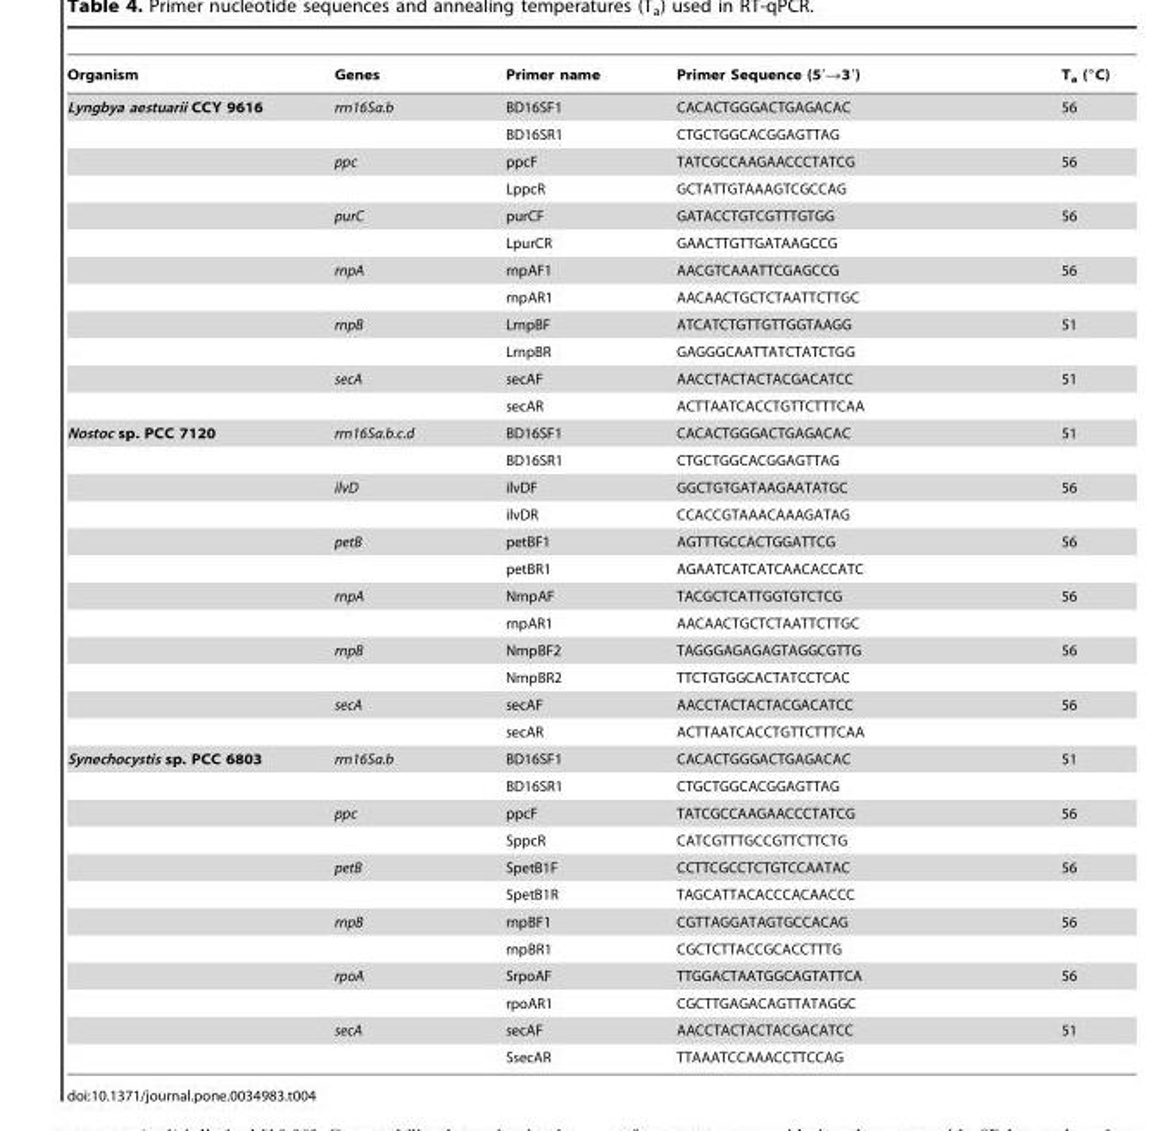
<table><thead><tr><td>Organism</td><td>Genes</td><td>Primer name</td><td>Primer Sequence (5′→3′)</td><td>T<sub>a</sub> (°C)</td></tr></thead><tbody><tr><td rowspan="12">Lyngbya aestuarii CCY 9616</td><td>rrn16Sa.b</td><td>BD16SF1</td><td>CACACTGGGACTGAGACAC</td><td>56</td></tr><tr><td></td><td>BD16SR1</td><td>CTGCTGGCACGGAGTTAG</td><td></td></tr><tr><td>ppc</td><td>ppcF</td><td>TATCGCCAAGAACCCTATCG</td><td>56</td></tr><tr><td></td><td>LppcR</td><td>GCTATTGTAAAGTCGCCAG</td><td></td></tr><tr><td>purC</td><td>purCF</td><td>GATACCTGTCGTTTGTGG</td><td>56</td></tr><tr><td></td><td>LpurCR</td><td>GAACTTGTTGATAAGCCG</td><td></td></tr><tr><td>rnpA</td><td>rnpAF1</td><td>AACGTCAAATTCGAGCCG</td><td>56</td></tr><tr><td></td><td>rnpAR1</td><td>AACAACTGCTCTAATTCTTGC</td><td></td></tr><tr><td>rnpB</td><td>LrnpBF</td><td>ATCATCTGTTGTTGGTAAGG</td><td>51</td></tr><tr><td></td><td>LrnpBR</td><td>GAGGGCAATTATCTATCTGG</td><td></td></tr><tr><td>secA</td><td>secAF</td><td>AACCTACTACTACGACATCC</td><td>51</td></tr><tr><td></td><td>secAR</td><td>ACTTAATCACCTGTTCTTTCAA</td><td></td></tr><tr><td rowspan="12">Nostoc sp. PCC 7120</td><td>rrn16Sa.b.c.d</td><td>BD16SF1</td><td>CACACTGGGACTGAGACAC</td><td>51</td></tr><tr><td></td><td>BD16SR1</td><td>CTGCTGGCACGGAGTTAG</td><td></td></tr><tr><td>ilvD</td><td>ilvDF</td><td>GGCTGTGATAAGAATATGC</td><td>56</td></tr><tr><td></td><td>ilvDR</td><td>CCACCGTAAACAAAGATAG</td><td></td></tr><tr><td>petB</td><td>petBF1</td><td>AGTTTGCCACTGGATTCG</td><td>56</td></tr><tr><td></td><td>petBR1</td><td>AGAATCATCATCAACACCATC</td><td></td></tr><tr><td>rnpA</td><td>NrnpAF</td><td>TACGCTCATTGGTGTCTCG</td><td>56</td></tr><tr><td></td><td>rnpAR1</td><td>AACAACTGCTCTAATTCTTGC</td><td></td></tr><tr><td>rnpB</td><td>NrnpBF2</td><td>TAGGGAGAGAGTAGGCGTTG</td><td>56</td></tr><tr><td></td><td>NrnpBR2</td><td>TTCTGTGGCACTATCCTCAC</td><td></td></tr><tr><td>secA</td><td>secAF</td><td>AACCTACTACTACGACATCC</td><td>56</td></tr><tr><td></td><td>secAR</td><td>ACTTAATCACCTGTTCTTTCAA</td><td></td></tr><tr><td rowspan="12">Synechocystis sp. PCC 6803</td><td>rrn16Sa.b</td><td>BD16SF1</td><td>CACACTGGGACTGAGACAC</td><td>51</td></tr><tr><td></td><td>BD16SR1</td><td>CTGCTGGCACGGAGTTAG</td><td></td></tr><tr><td>ppc</td><td>ppcF</td><td>TATCGCCAAGAACCCTATCG</td><td>56</td></tr><tr><td></td><td>SppcR</td><td>CATCGTTTGCCGTTCTTCTG</td><td></td></tr><tr><td>petB</td><td>SpetB1F</td><td>CCTTCGCCTCTGTCCAATAC</td><td>56</td></tr><tr><td></td><td>SpetB1R</td><td>TAGCATTACACCCACAACCC</td><td></td></tr><tr><td>rnpB</td><td>rnpBF1</td><td>CGTTAGGATAGTGCCACAG</td><td>56</td></tr><tr><td></td><td>rnpBR1</td><td>CGCTCTTACCGCACCTTTG</td><td></td></tr><tr><td>rpoA</td><td>SrpoAF</td><td>TTGGACTAATGGCAGTATTCA</td><td>56</td></tr><tr><td></td><td>rpoAR1</td><td>CGCTTGAGACAGTTATAGGC</td><td></td></tr><tr><td>secA</td><td>secAF</td><td>AACCTACTACTACGACATCC</td><td>51</td></tr><tr><td></td><td>SsecAR</td><td>TTAAATCCAAACCTTCCAG</td><td></td></tr></tbody></table>